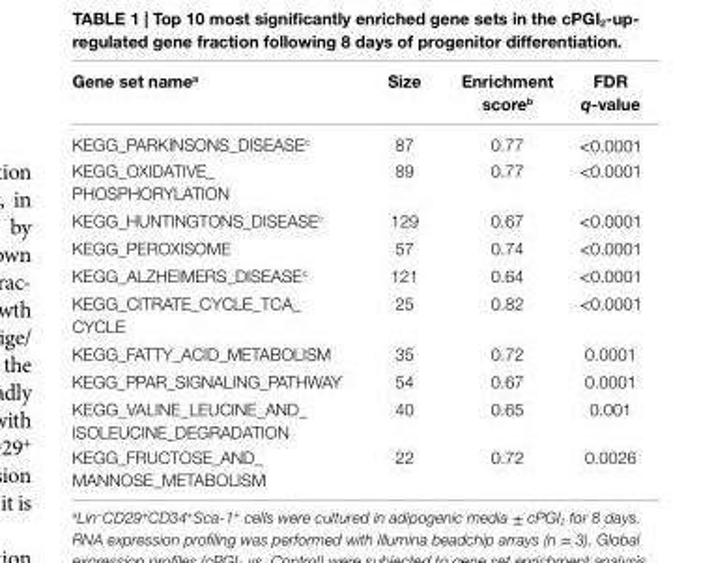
<table><thead><tr><td>gene set name<sup>a</sup></td><td>size</td><td>enrichment score<sup>b</sup></td><td>FDr q-value</td></tr></thead><tbody><tr><td>KEGG_PARKINSONS_DISEASE<sup>c</sup></td><td>87</td><td>0.77</td><td>&lt;0.0001</td></tr><tr><td>KEGG_OXIDATIVE_ PHOSPHORYLATION</td><td>89</td><td>0.77</td><td>&lt;0.0001</td></tr><tr><td>KEGG_HUNTINGTONS_DISEASE<sup>c</sup></td><td>129</td><td>0.67</td><td>&lt;0.0001</td></tr><tr><td>KEGG_PEROXISOME</td><td>57</td><td>0.74</td><td>&lt;0.0001</td></tr><tr><td>KEGG_ALZHEIMERS_DISEASE<sup>c</sup></td><td>121</td><td>0.64</td><td>&lt;0.0001</td></tr><tr><td>KEGG_CITRATE_CYCLE_TCA_ CYCLE</td><td>25</td><td>0.82</td><td>&lt;0.0001</td></tr><tr><td>KEGG_FATTY_ACID_METABOLISM</td><td>35</td><td>0.72</td><td>0.0001</td></tr><tr><td>KEGG_PPAR_SIGNALING_PATHWAY</td><td>54</td><td>0.67</td><td>0.0001</td></tr><tr><td>KEGG_VALINE_LEUCINE_AND_ ISOLEUCINE_DEGRADATION</td><td>40</td><td>0.65</td><td>0.001</td></tr><tr><td>KEGG_FRUCTOSE_AND_ MANNOSE_METABOLISM</td><td>22</td><td>0.72</td><td>0.0026</td></tr></tbody></table>